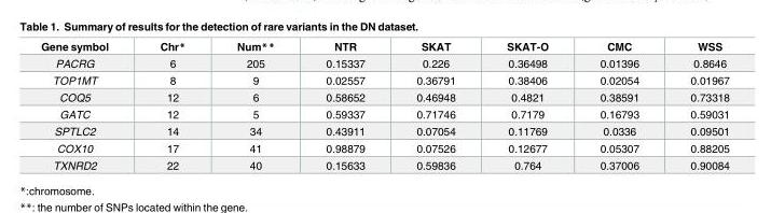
<table><thead><tr><td>Gene symbol</td><td>Chr*</td><td>Num**</td><td>NTR</td><td>SKAT</td><td>SKAT-O</td><td>CMC</td><td>WSS</td></tr></thead><tbody><tr><td>PACRG</td><td>6</td><td>205</td><td>0.15337</td><td>0.226</td><td>0.36498</td><td>0.01396</td><td>0.8646</td></tr><tr><td>TOP1MT</td><td>8</td><td>9</td><td>0.02557</td><td>0.36791</td><td>0.38406</td><td>0.02054</td><td>0.01967</td></tr><tr><td>COQ5</td><td>12</td><td>6</td><td>0.58652</td><td>0.46948</td><td>0.4821</td><td>0.38591</td><td>0.73318</td></tr><tr><td>GATC</td><td>12</td><td>5</td><td>0.59337</td><td>0.71746</td><td>0.7179</td><td>0.16793</td><td>0.59031</td></tr><tr><td>SPTLC2</td><td>14</td><td>34</td><td>0.43911</td><td>0.07054</td><td>0.11769</td><td>0.0336</td><td>0.09501</td></tr><tr><td>COX10</td><td>17</td><td>41</td><td>0.98879</td><td>0.07526</td><td>0.12677</td><td>0.05307</td><td>0.88205</td></tr><tr><td>TXNRD2</td><td>22</td><td>40</td><td>0.15633</td><td>0.59836</td><td>0.764</td><td>0.37006</td><td>0.90084</td></tr></tbody></table>